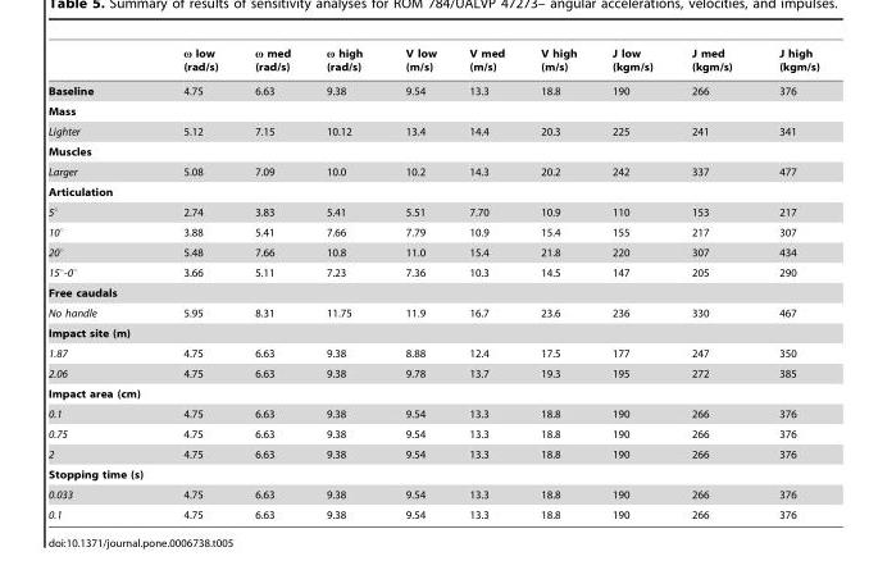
<table><thead><tr><td></td><td>ω low (rad/s)</td><td>ω med (rad/s)</td><td>ω high (rad/s)</td><td>V low (m/s)</td><td>V med (m/s)</td><td>V high (m/s)</td><td>J low (kgm/s)</td><td>J med (kgm/s)</td><td>J high (kgm/s)</td></tr></thead><tbody><tr><td>Baseline</td><td>4.75</td><td>6.63</td><td>9.38</td><td>9.54</td><td>13.3</td><td>18.8</td><td>190</td><td>266</td><td>376</td></tr><tr><td colspan="10">Mass</td></tr><tr><td>Lighter</td><td>5.12</td><td>7.15</td><td>10.12</td><td>13.4</td><td>14.4</td><td>20.3</td><td>225</td><td>241</td><td>341</td></tr><tr><td colspan="10">Muscles</td></tr><tr><td>Larger</td><td>5.08</td><td>7.09</td><td>10.0</td><td>10.2</td><td>14.3</td><td>20.2</td><td>242</td><td>337</td><td>477</td></tr><tr><td colspan="10">Articulation</td></tr><tr><td>5°</td><td>2.74</td><td>3.83</td><td>5.41</td><td>5.51</td><td>7.70</td><td>10.9</td><td>110</td><td>153</td><td>217</td></tr><tr><td>10°</td><td>3.88</td><td>5.41</td><td>7.66</td><td>7.79</td><td>10.9</td><td>15.4</td><td>155</td><td>217</td><td>307</td></tr><tr><td>20°</td><td>5.48</td><td>7.66</td><td>10.8</td><td>11.0</td><td>15.4</td><td>21.8</td><td>220</td><td>307</td><td>434</td></tr><tr><td>15°-0°</td><td>3.66</td><td>5.11</td><td>7.23</td><td>7.36</td><td>10.3</td><td>14.5</td><td>147</td><td>205</td><td>290</td></tr><tr><td colspan="10">Free caudals</td></tr><tr><td>No handle</td><td>5.95</td><td>8.31</td><td>11.75</td><td>11.9</td><td>16.7</td><td>23.6</td><td>236</td><td>330</td><td>467</td></tr><tr><td colspan="10">Impact site (m)</td></tr><tr><td>1.87</td><td>4.75</td><td>6.63</td><td>9.38</td><td>8.88</td><td>12.4</td><td>17.5</td><td>177</td><td>247</td><td>350</td></tr><tr><td>2.06</td><td>4.75</td><td>6.63</td><td>9.38</td><td>9.78</td><td>13.7</td><td>19.3</td><td>195</td><td>272</td><td>385</td></tr><tr><td colspan="10">Impact area (cm)</td></tr><tr><td>0.1</td><td>4.75</td><td>6.63</td><td>9.38</td><td>9.54</td><td>13.3</td><td>18.8</td><td>190</td><td>266</td><td>376</td></tr><tr><td>0.75</td><td>4.75</td><td>6.63</td><td>9.38</td><td>9.54</td><td>13.3</td><td>18.8</td><td>190</td><td>266</td><td>376</td></tr><tr><td>2</td><td>4.75</td><td>6.63</td><td>9.38</td><td>9.54</td><td>13.3</td><td>18.8</td><td>190</td><td>266</td><td>376</td></tr><tr><td colspan="10">Stopping time (s)</td></tr><tr><td>0.033</td><td>4.75</td><td>6.63</td><td>9.38</td><td>9.54</td><td>13.3</td><td>18.8</td><td>190</td><td>266</td><td>376</td></tr><tr><td>0.1</td><td>4.75</td><td>6.63</td><td>9.38</td><td>9.54</td><td>13.3</td><td>18.8</td><td>190</td><td>266</td><td>376</td></tr></tbody></table>